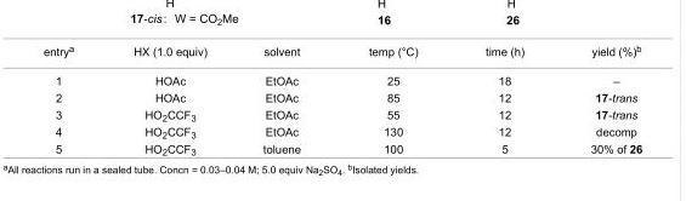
<table><tbody><tr><td>entry<sup>a</sup></td><td>HX (1.0 equiv)</td><td>solvent</td><td>temp (°C)</td><td>time (h)</td><td>yield (%)<sup>b</sup></td></tr><tr><td>1</td><td>HOAc</td><td>EtOAc</td><td>25</td><td>18</td><td>–</td></tr><tr><td>2</td><td>HOAc</td><td>EtOAc</td><td>85</td><td>12</td><td>17-trans</td></tr><tr><td>3</td><td>HO<sub>2</sub>CCF<sub>3</sub></td><td>EtOAc</td><td>55</td><td>12</td><td>17-trans</td></tr><tr><td>4</td><td>HO<sub>2</sub>CCF<sub>3</sub></td><td>EtOAc</td><td>130</td><td>12</td><td>decomp</td></tr><tr><td>5</td><td>HO<sub>2</sub>CCF<sub>3</sub></td><td>toluene</td><td>100</td><td>5</td><td>30% of 26</td></tr></tbody></table>